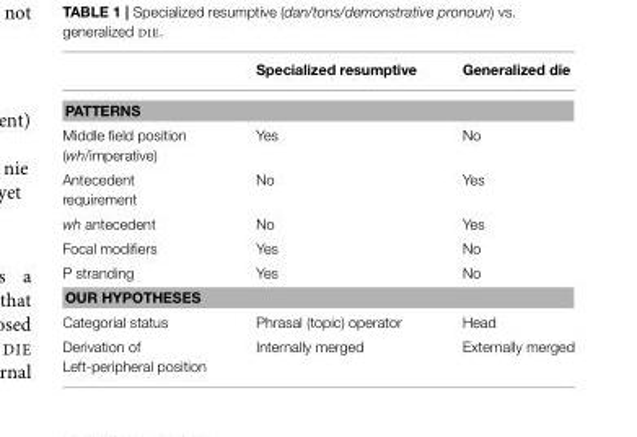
<table><thead><tr><td></td><td>Specialized resumptive</td><td>Generalized die</td></tr></thead><tbody><tr><td colspan="3">PATTERNS</td></tr><tr><td>Middle field position (wh/imperative)</td><td>Yes</td><td>No</td></tr><tr><td>Antecedent requirement</td><td>No</td><td>Yes</td></tr><tr><td>wh antecedent</td><td>No</td><td>Yes</td></tr><tr><td>Focal modifiers</td><td>Yes</td><td>No</td></tr><tr><td>P stranding</td><td>Yes</td><td>No</td></tr><tr><td colspan="3">OUR HYPOTHESES</td></tr><tr><td>Categorial status</td><td>Phrasal (topic) operator</td><td>Head</td></tr><tr><td>Derivation of Left-peripheral position</td><td>Internally merged</td><td>Externally merged</td></tr></tbody></table>